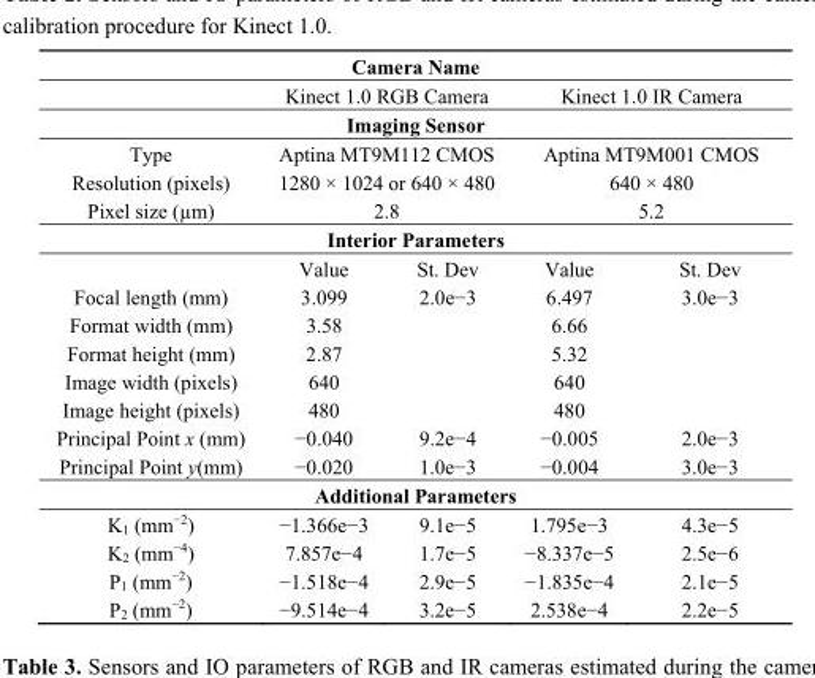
<table><thead><tr><td colspan="5">Camera Name</td></tr></thead><tbody><tr><td></td><td colspan="2">Kinect 1.0 RGB Camera</td><td colspan="2">Kinect 1.0 IR Camera</td></tr><tr><td colspan="5">Imaging Sensor</td></tr><tr><td>Type</td><td colspan="2">Aptina MT9M112 CMOS</td><td colspan="2">Aptina MT9M001 CMOS</td></tr><tr><td>Resolution (pixels)</td><td colspan="2">1280 × 1024 or 640 × 480</td><td colspan="2">640 × 480</td></tr><tr><td>Pixel size (µm)</td><td colspan="2">2.8</td><td colspan="2">5.2</td></tr><tr><td colspan="5">Interior Parameters</td></tr><tr><td></td><td>Value</td><td>St. Dev</td><td>Value</td><td>St. Dev</td></tr><tr><td>Focal length (mm)</td><td>3.099</td><td>2.0e−3</td><td>6.497</td><td>3.0e−3</td></tr><tr><td>Format width (mm)</td><td>3.58</td><td></td><td>6.66</td><td></td></tr><tr><td>Format height (mm)</td><td>2.87</td><td></td><td>5.32</td><td></td></tr><tr><td>Image width (pixels)</td><td>640</td><td></td><td>640</td><td></td></tr><tr><td>Image height (pixels)</td><td>480</td><td></td><td>480</td><td></td></tr><tr><td>Principal Point x (mm)</td><td>−0.040</td><td>9.2e−4</td><td>−0.005</td><td>2.0e−3</td></tr><tr><td>Principal Point y(mm)</td><td>−0.020</td><td>1.0e−3</td><td>−0.004</td><td>3.0e−3</td></tr><tr><td colspan="5">Additional Parameters</td></tr><tr><td>K<sub>1</sub> (mm<sup>−2</sup>)</td><td>−1.366e−3</td><td>9.1e−5</td><td>1.795e−3</td><td>4.3e−5</td></tr><tr><td>K<sub>2</sub> (mm<sup>−4</sup>)</td><td>7.857e−4</td><td>1.7e−5</td><td>−8.337e−5</td><td>2.5e−6</td></tr><tr><td>P<sub>1</sub> (mm<sup>−2</sup>)</td><td>−1.518e−4</td><td>2.9e−5</td><td>−1.835e−4</td><td>2.1e−5</td></tr><tr><td>P<sub>2</sub> (mm<sup>−2</sup>)</td><td>−9.514e−4</td><td>3.2e−5</td><td>2.538e−4</td><td>2.2e−5</td></tr></tbody></table>